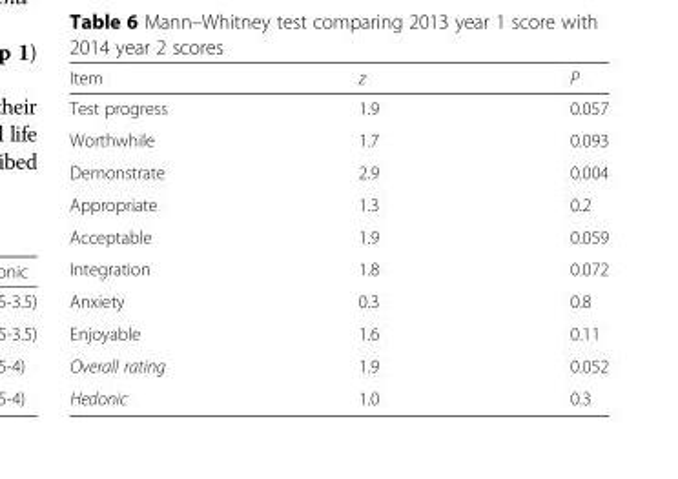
<table><thead><tr><td>Item</td><td>z</td><td>P</td></tr></thead><tbody><tr><td>Test progress</td><td>1.9</td><td>0.057</td></tr><tr><td>Worthwhile</td><td>1.7</td><td>0.093</td></tr><tr><td>Demonstrate</td><td>2.9</td><td>0.004</td></tr><tr><td>Appropriate</td><td>1.3</td><td>0.2</td></tr><tr><td>Acceptable</td><td>1.9</td><td>0.059</td></tr><tr><td>Integration</td><td>1.8</td><td>0.072</td></tr><tr><td>Anxiety</td><td>0.3</td><td>0.8</td></tr><tr><td>Enjoyable</td><td>1.6</td><td>0.11</td></tr><tr><td>Overall rating</td><td>1.9</td><td>0.052</td></tr><tr><td>Hedonic</td><td>1.0</td><td>0.3</td></tr></tbody></table>